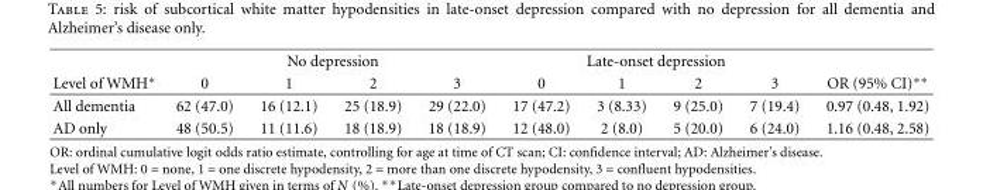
<table><thead><tr><td rowspan="2">Level of WMH∗</td><td colspan="4">No depression</td><td colspan="4">Late-onset depression</td><td rowspan="2">OR (95% CI)∗∗</td></tr><tr><td>0</td><td>1</td><td>2</td><td>3</td><td>0</td><td>1</td><td>2</td><td>3</td></tr></thead><tbody><tr><td>All dementia</td><td>62 (47.0)</td><td>16 (12.1)</td><td>25 (18.9)</td><td>29 (22.0)</td><td>17 (47.2)</td><td>3 (8.33)</td><td>9 (25.0)</td><td>7 (19.4)</td><td>0.97 (0.48, 1.92)</td></tr><tr><td>AD only</td><td>48 (50.5)</td><td>11 (11.6)</td><td>18 (18.9)</td><td>18 (18.9)</td><td>12 (48.0)</td><td>2 (8.0)</td><td>5 (20.0)</td><td>6 (24.0)</td><td>1.16 (0.48, 2.58)</td></tr></tbody></table>